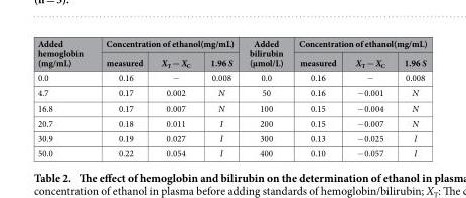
<table><thead><tr><td rowspan="2">Added hemoglobin (mg/mL)</td><td colspan="3">Concentration of ethanol(mg/mL)</td><td rowspan="2">Added bilirubin (μmol/L)</td><td colspan="3">Concentration of ethanol(mg/mL)</td></tr><tr><td>measured</td><td>X<sub>T</sub> − X<sub>C</sub></td><td>1.96 S</td><td>measured</td><td>X<sub>T</sub> − X<sub>C</sub></td><td>1.96 S</td></tr></thead><tbody><tr><td>0.0</td><td>0.16</td><td>−</td><td>0.008</td><td>0.0</td><td>0.16</td><td>−</td><td>0.008</td></tr><tr><td>4.7</td><td>0.17</td><td>0.002</td><td>N</td><td>50</td><td>0.16</td><td>− 0.001</td><td>N</td></tr><tr><td>16.8</td><td>0.17</td><td>0.007</td><td>N</td><td>100</td><td>0.15</td><td>− 0.004</td><td>N</td></tr><tr><td>20.7</td><td>0.18</td><td>0.011</td><td>I</td><td>200</td><td>0.15</td><td>− 0.007</td><td>N</td></tr><tr><td>30.9</td><td>0.19</td><td>0.027</td><td>I</td><td>300</td><td>0.13</td><td>− 0.025</td><td>I</td></tr><tr><td>50.0</td><td>0.22</td><td>0.054</td><td>I</td><td>400</td><td>0.10</td><td>− 0.057</td><td>I</td></tr></tbody></table>